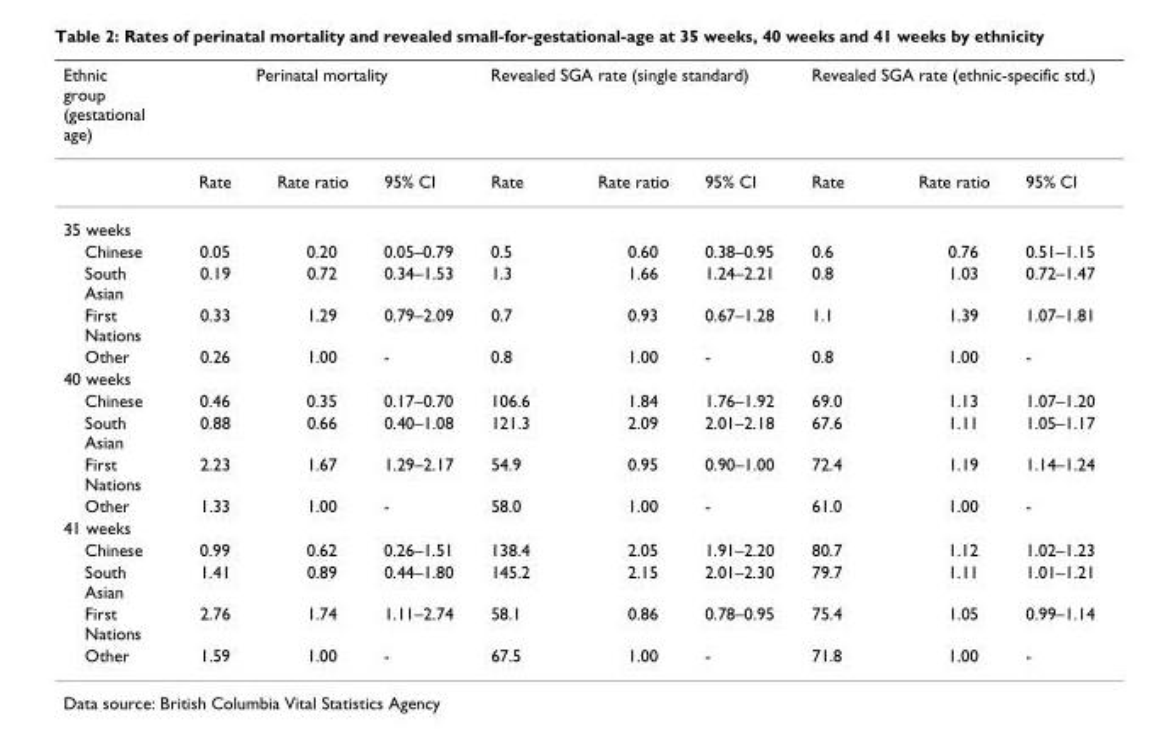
<table><thead><tr><td rowspan="2">Ethnic group (gestational age)</td><td colspan="3">Perinatal mortality</td><td colspan="3">Revealed SGA rate (single standard)</td><td colspan="3">Revealed SGA rate (ethnic-specific std.)</td></tr><tr><td>Rate</td><td>Rate ratio</td><td>95% CI</td><td>Rate</td><td>Rate ratio</td><td>95% CI</td><td>Rate</td><td>Rate ratio</td><td>95% CI</td></tr></thead><tbody><tr><td colspan="10">35 weeks</td></tr><tr><td>Chinese</td><td>0.05</td><td>0.20</td><td>0.05–0.79</td><td>0.5</td><td>0.60</td><td>0.38–0.95</td><td>0.6</td><td>0.76</td><td>0.51–1.15</td></tr><tr><td>South Asian</td><td>0.19</td><td>0.72</td><td>0.34–1.53</td><td>1.3</td><td>1.66</td><td>1.24–2.21</td><td>0.8</td><td>1.03</td><td>0.72–1.47</td></tr><tr><td>First Nations</td><td>0.33</td><td>1.29</td><td>0.79–2.09</td><td>0.7</td><td>0.93</td><td>0.67–1.28</td><td>1.1</td><td>1.39</td><td>1.07–1.81</td></tr><tr><td>Other</td><td>0.26</td><td>1.00</td><td>-</td><td>0.8</td><td>1.00</td><td>-</td><td>0.8</td><td>1.00</td><td>-</td></tr><tr><td colspan="10">40 weeks</td></tr><tr><td>Chinese</td><td>0.46</td><td>0.35</td><td>0.17–0.70</td><td>106.6</td><td>1.84</td><td>1.76–1.92</td><td>69.0</td><td>1.13</td><td>1.07–1.20</td></tr><tr><td>South Asian</td><td>0.88</td><td>0.66</td><td>0.40–1.08</td><td>121.3</td><td>2.09</td><td>2.01–2.18</td><td>67.6</td><td>1.11</td><td>1.05–1.17</td></tr><tr><td>First Nations</td><td>2.23</td><td>1.67</td><td>1.29–2.17</td><td>54.9</td><td>0.95</td><td>0.90–1.00</td><td>72.4</td><td>1.19</td><td>1.14–1.24</td></tr><tr><td>Other</td><td>1.33</td><td>1.00</td><td>-</td><td>58.0</td><td>1.00</td><td>-</td><td>61.0</td><td>1.00</td><td>-</td></tr><tr><td colspan="10">41 weeks</td></tr><tr><td>Chinese</td><td>0.99</td><td>0.62</td><td>0.26–1.51</td><td>138.4</td><td>2.05</td><td>1.91–2.20</td><td>80.7</td><td>1.12</td><td>1.02–1.23</td></tr><tr><td>South Asian</td><td>1.41</td><td>0.89</td><td>0.44–1.80</td><td>145.2</td><td>2.15</td><td>2.01–2.30</td><td>79.7</td><td>1.11</td><td>1.01–1.21</td></tr><tr><td>First Nations</td><td>2.76</td><td>1.74</td><td>1.11–2.74</td><td>58.1</td><td>0.86</td><td>0.78–0.95</td><td>75.4</td><td>1.05</td><td>0.99–1.14</td></tr><tr><td>Other</td><td>1.59</td><td>1.00</td><td>-</td><td>67.5</td><td>1.00</td><td>-</td><td>71.8</td><td>1.00</td><td>-</td></tr></tbody></table>